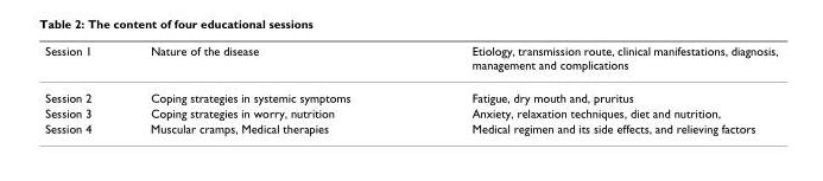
<table><thead><tr><td>Session 1</td><td>Nature of the disease</td><td>Etiology, transmission route, clinical manifestations, diagnosis, management and complications</td></tr></thead><tbody><tr><td>Session 2</td><td>Coping strategies in systemic symptoms</td><td>Fatigue, dry mouth and, pruritus</td></tr><tr><td>Session 3</td><td>Coping strategies in worry, nutrition</td><td>Anxiety, relaxation techniques, diet and nutrition,</td></tr><tr><td>Session 4</td><td>Muscular cramps, Medical therapies</td><td>Medical regimen and its side effects, and relieving factors</td></tr></tbody></table>